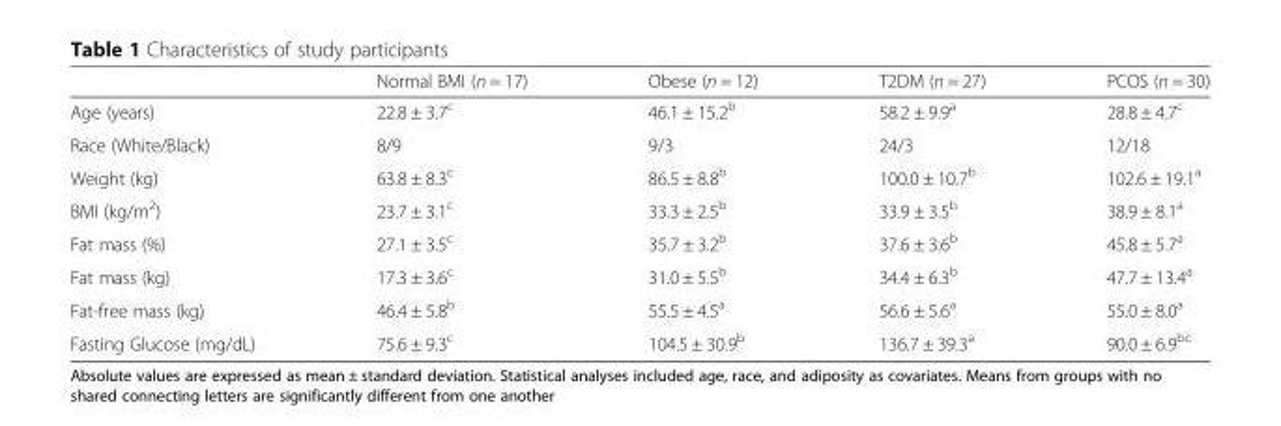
<table><thead><tr><td></td><td>Normal BMI (n = 17)</td><td>Obese (n = 12)</td><td>T2DM (n = 27)</td><td>PCOS (n = 30)</td></tr></thead><tbody><tr><td>Age (years)</td><td>22.8 ± 3.7<sup>c</sup></td><td>46.1 ± 15.2<sup>b</sup></td><td>58.2 ± 9.9<sup>a</sup></td><td>28.8 ± 4.7<sup>c</sup></td></tr><tr><td>Race (White/Black)</td><td>8/9</td><td>9/3</td><td>24/3</td><td>12/18</td></tr><tr><td>Weight (kg)</td><td>63.8 ± 8.3<sup>c</sup></td><td>86.5 ± 8.8<sup>b</sup></td><td>100.0 ± 10.7<sup>b</sup></td><td>102.6 ± 19.1<sup>a</sup></td></tr><tr><td>BMI (kg/m<sup>2</sup>)</td><td>23.7 ± 3.1<sup>c</sup></td><td>33.3 ± 2.5<sup>b</sup></td><td>33.9 ± 3.5<sup>b</sup></td><td>38.9 ± 8.1<sup>a</sup></td></tr><tr><td>Fat mass (%)</td><td>27.1 ± 3.5<sup>c</sup></td><td>35.7 ± 3.2<sup>b</sup></td><td>37.6 ± 3.6<sup>b</sup></td><td>45.8 ± 5.7<sup>a</sup></td></tr><tr><td>Fat mass (kg)</td><td>17.3 ± 3.6<sup>c</sup></td><td>31.0 ± 5.5<sup>b</sup></td><td>34.4 ± 6.3<sup>b</sup></td><td>47.7 ± 13.4<sup>a</sup></td></tr><tr><td>Fat-free mass (kg)</td><td>46.4 ± 5.8<sup>b</sup></td><td>55.5 ± 4.5<sup>a</sup></td><td>56.6 ± 5.6<sup>a</sup></td><td>55.0 ± 8.0<sup>a</sup></td></tr><tr><td>Fasting Glucose (mg/dL)</td><td>75.6 ± 9.3<sup>c</sup></td><td>104.5 ± 30.9<sup>b</sup></td><td>136.7 ± 39.3<sup>a</sup></td><td>90.0 ± 6.9<sup>bc</sup></td></tr></tbody></table>